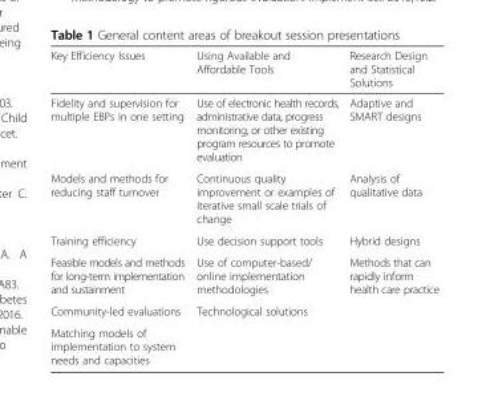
<table><thead><tr><td>Key Efficiency Issues</td><td>Using Available and Affordable Tools</td><td>Research Design and Statistical Solutions</td></tr></thead><tbody><tr><td>Fidelity and supervision for multiple EBPs in one setting</td><td>Use of electronic health records, administrative data, progress monitoring, or other existing program resources to promote evaluation</td><td>Adaptive and SMART designs</td></tr><tr><td>Models and methods for reducing staff turnover</td><td>Continuous quality improvement or examples of iterative small scale trials of change</td><td>Analysis of qualitative data</td></tr><tr><td>Training efficiency</td><td>Use decision support tools</td><td>Hybrid designs</td></tr><tr><td>Feasible models and methods for long-term implementation and sustainment</td><td>Use of computer-based/ online implementation methodologies</td><td>Methods that can rapidly inform health care practice</td></tr><tr><td>Community-led evaluations</td><td>Technological solutions</td><td></td></tr><tr><td>Matching models of implementation to system needs and capacities</td><td></td><td></td></tr></tbody></table>